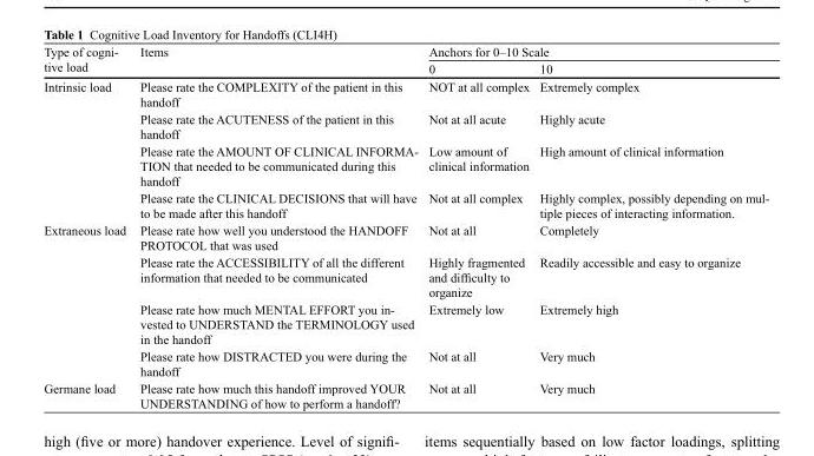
<table><thead><tr><td rowspan="2">Type of cogni- tive load</td><td rowspan="2">Items</td><td colspan="2">Anchors for 0–10 Scale</td></tr><tr><td>0</td><td>10</td></tr></thead><tbody><tr><td rowspan="4">Intrinsic load</td><td>Please rate the COMPLEXITY of the patient in this handoff</td><td>NOT at all complex</td><td>Extremely complex</td></tr><tr><td>Please rate the ACUTENESS of the patient in this handoff</td><td>Not at all acute</td><td>Highly acute</td></tr><tr><td>Please rate the AMOUNT OF CLINICAL INFORMA- TION that needed to be communicated during this handoff</td><td>Low amount of clinical information</td><td>High amount of clinical information</td></tr><tr><td>Please rate the CLINICAL DECISIONS that will have to be made after this handoff</td><td>Not at all complex</td><td>Highly complex, possibly depending on mul- tiple pieces of interacting information.</td></tr><tr><td rowspan="4">Extraneous load</td><td>Please rate how well you understood the HANDOFF PROTOCOL that was used</td><td>Not at all</td><td>Completely</td></tr><tr><td>Please rate the ACCESSIBILITY of all the different information that needed to be communicated</td><td>Highly fragmented and difficulty to organize</td><td>Readily accessible and easy to organize</td></tr><tr><td>Please rate how much MENTAL EFFORT you in- vested to UNDERSTAND the TERMINOLOGY used in the handoff</td><td>Extremely low</td><td>Extremely high</td></tr><tr><td>Please rate how DISTRACTED you were during the handoff</td><td>Not at all</td><td>Very much</td></tr><tr><td>Germane load</td><td>Please rate how much this handoff improved YOUR UNDERSTANDING of how to perform a handoff?</td><td>Not at all</td><td>Very much</td></tr></tbody></table>